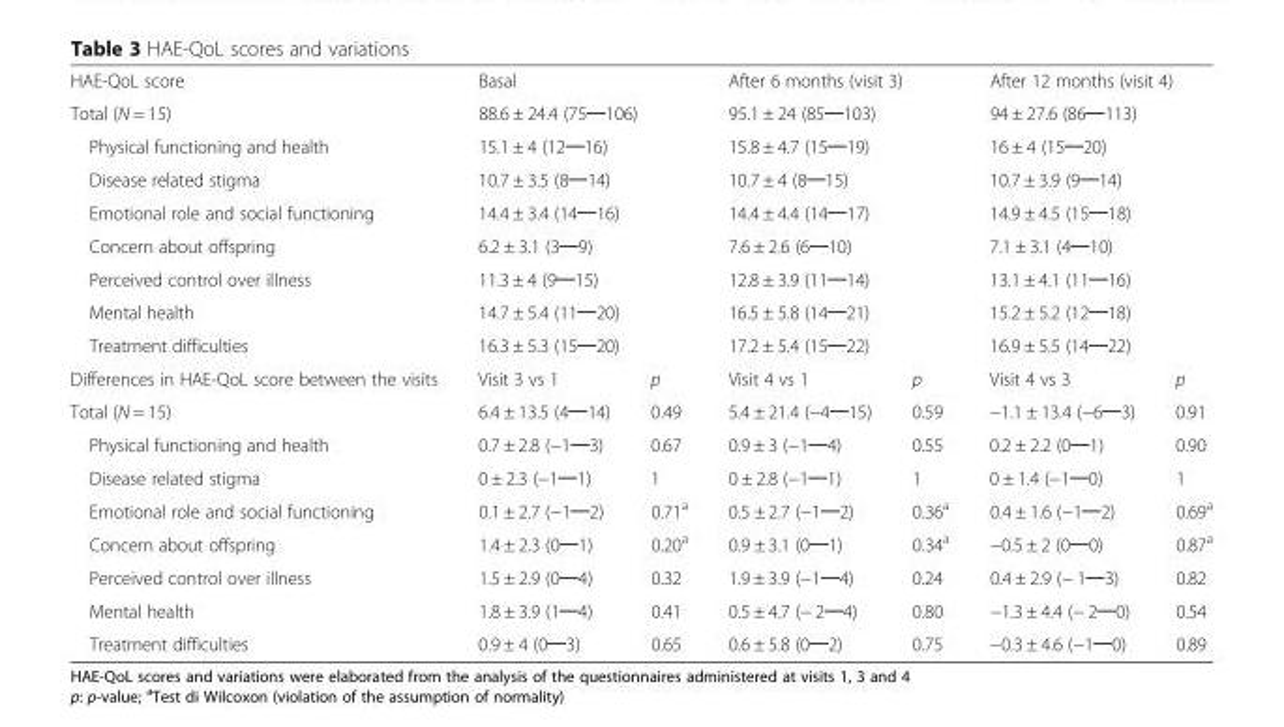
<table><tbody><tr><td>HAE-QoL score</td><td colspan="2">Basal</td><td colspan="2">After 6 months (visit 3)</td><td colspan="2">After 12 months (visit 4)</td></tr><tr><td>Total (N = 15)</td><td colspan="2">88.6 ± 24.4 (75─106)</td><td colspan="2">95.1 ± 24 (85─103)</td><td colspan="2">94 ± 27.6 (86─113)</td></tr><tr><td>Physical functioning and health</td><td colspan="2">15.1 ± 4 (12─16)</td><td colspan="2">15.8 ± 4.7 (15─19)</td><td colspan="2">16 ± 4 (15─20)</td></tr><tr><td>Disease related stigma</td><td colspan="2">10.7 ± 3.5 (8─14)</td><td colspan="2">10.7 ± 4 (8─15)</td><td colspan="2">10.7 ± 3.9 (9─14)</td></tr><tr><td>Emotional role and social functioning</td><td colspan="2">14.4 ± 3.4 (14─16)</td><td colspan="2">14.4 ± 4.4 (14─17)</td><td colspan="2">14.9 ± 4.5 (15─18)</td></tr><tr><td>Concern about offspring</td><td colspan="2">6.2 ± 3.1 (3─9)</td><td colspan="2">7.6 ± 2.6 (6─10)</td><td colspan="2">7.1 ± 3.1 (4─10)</td></tr><tr><td>Perceived control over illness</td><td colspan="2">11.3 ± 4 (9─15)</td><td colspan="2">12.8 ± 3.9 (11─14)</td><td colspan="2">13.1 ± 4.1 (11─16)</td></tr><tr><td>Mental health</td><td colspan="2">14.7 ± 5.4 (11─20)</td><td colspan="2">16.5 ± 5.8 (14─21)</td><td colspan="2">15.2 ± 5.2 (12─18)</td></tr><tr><td>Treatment difficulties</td><td colspan="2">16.3 ± 5.3 (15─20)</td><td colspan="2">17.2 ± 5.4 (15─22)</td><td colspan="2">16.9 ± 5.5 (14─22)</td></tr><tr><td>Differences in HAE-QoL score between the visits</td><td>Visit 3 vs 1</td><td>p</td><td>Visit 4 vs 1</td><td>p</td><td>Visit 4 vs 3</td><td>p</td></tr><tr><td>Total (N = 15)</td><td>6.4 ± 13.5 (4─14)</td><td>0.49</td><td>5.4 ± 21.4 (−4─15)</td><td>0.59</td><td>−1.1 ± 13.4 (−6─3)</td><td>0.91</td></tr><tr><td>Physical functioning and health</td><td>0.7 ± 2.8 (−1─3)</td><td>0.67</td><td>0.9 ± 3 (−1─4)</td><td>0.55</td><td>0.2 ± 2.2 (0─1)</td><td>0.90</td></tr><tr><td>Disease related stigma</td><td>0 ± 2.3 (−1─1)</td><td>1</td><td>0 ± 2.8 (−1─1)</td><td>1</td><td>0 ± 1.4 (−1─0)</td><td>1</td></tr><tr><td>Emotional role and social functioning</td><td>0.1 ± 2.7 (−1─2)</td><td>0.71<sup>a</sup></td><td>0.5 ± 2.7 (−1─2)</td><td>0.36<sup>a</sup></td><td>0.4 ± 1.6 (−1─2)</td><td>0.69<sup>a</sup></td></tr><tr><td>Concern about offspring</td><td>1.4 ± 2.3 (0─1)</td><td>0.20<sup>a</sup></td><td>0.9 ± 3.1 (0─1)</td><td>0.34<sup>a</sup></td><td>−0.5 ± 2 (0─0)</td><td>0.87<sup>a</sup></td></tr><tr><td>Perceived control over illness</td><td>1.5 ± 2.9 (0─4)</td><td>0.32</td><td>1.9 ± 3.9 (−1─4)</td><td>0.24</td><td>0.4 ± 2.9 (− 1─3)</td><td>0.82</td></tr><tr><td>Mental health</td><td>1.8 ± 3.9 (1─4)</td><td>0.41</td><td>0.5 ± 4.7 (− 2─4)</td><td>0.80</td><td>−1.3 ± 4.4 (− 2─0)</td><td>0.54</td></tr><tr><td>Treatment difficulties</td><td>0.9 ± 4 (0─3)</td><td>0.65</td><td>0.6 ± 5.8 (0─2)</td><td>0.75</td><td>−0.3 ± 4.6 (−1─0)</td><td>0.89</td></tr></tbody></table>